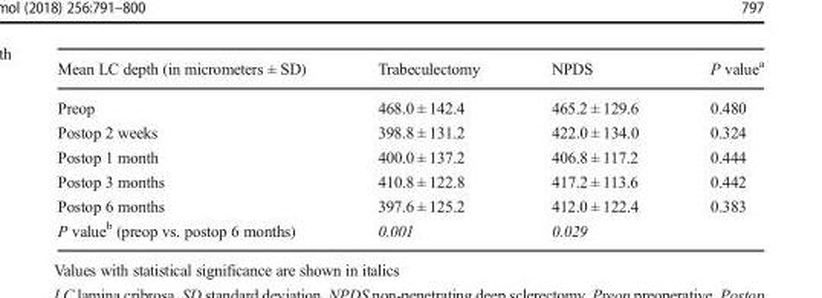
<table><thead><tr><td>Mean LC depth (in micrometers ± SD)</td><td>Trabeculectomy</td><td>NPDS</td><td>P value<sup>a</sup></td></tr></thead><tbody><tr><td>Preop</td><td>468.0 ± 142.4</td><td>465.2 ± 129.6</td><td>0.480</td></tr><tr><td>Postop 2 weeks</td><td>398.8 ± 131.2</td><td>422.0 ± 134.0</td><td>0.324</td></tr><tr><td>Postop 1 month</td><td>400.0 ± 137.2</td><td>406.8 ± 117.2</td><td>0.444</td></tr><tr><td>Postop 3 months</td><td>410.8 ± 122.8</td><td>417.2 ± 113.6</td><td>0.442</td></tr><tr><td>Postop 6 months</td><td>397.6 ± 125.2</td><td>412.0 ± 122.4</td><td>0.383</td></tr><tr><td>P value<sup>b</sup> (preop vs. postop 6 months)</td><td>0.001</td><td>0.029</td><td></td></tr></tbody></table>